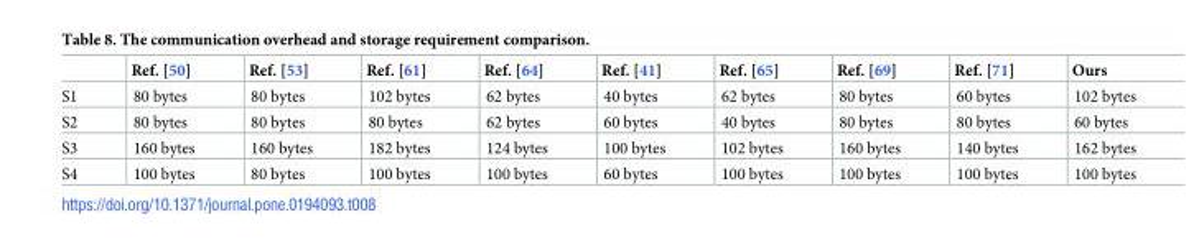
<table><thead><tr><td></td><td>Ref. [50]</td><td>Ref. [53]</td><td>Ref. [61]</td><td>Ref. [64]</td><td>Ref. [41]</td><td>Ref. [65]</td><td>Ref. [69]</td><td>Ref. [71]</td><td>Ours</td></tr></thead><tbody><tr><td>S1</td><td>80 bytes</td><td>80 bytes</td><td>102 bytes</td><td>62 bytes</td><td>40 bytes</td><td>62 bytes</td><td>80 bytes</td><td>60 bytes</td><td>102 bytes</td></tr><tr><td>S2</td><td>80 bytes</td><td>80 bytes</td><td>80 bytes</td><td>62 bytes</td><td>60 bytes</td><td>40 bytes</td><td>80 bytes</td><td>80 bytes</td><td>60 bytes</td></tr><tr><td>S3</td><td>160 bytes</td><td>160 bytes</td><td>182 bytes</td><td>124 bytes</td><td>100 bytes</td><td>102 bytes</td><td>160 bytes</td><td>140 bytes</td><td>162 bytes</td></tr><tr><td>S4</td><td>100 bytes</td><td>80 bytes</td><td>100 bytes</td><td>100 bytes</td><td>60 bytes</td><td>100 bytes</td><td>100 bytes</td><td>100 bytes</td><td>100 bytes</td></tr></tbody></table>